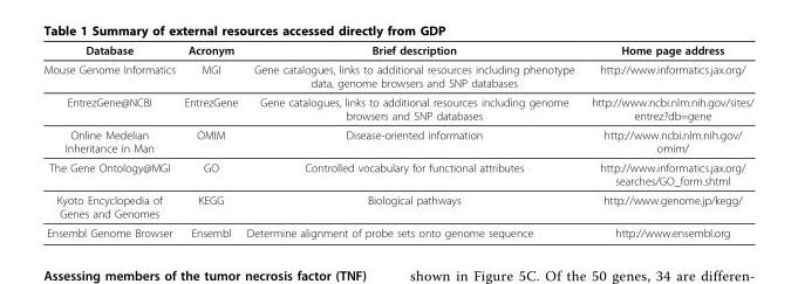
<table><thead><tr><td>Database</td><td>Acronym</td><td>Brief description</td><td>Home page address</td></tr></thead><tbody><tr><td>Mouse Genome Informatics</td><td>MGI</td><td>Gene catalogues, links to additional resources including phenotype data, genome browsers and SNP databases</td><td>http://www.informatics.jax.org/</td></tr><tr><td>EntrezGene@NCBI</td><td>EntrezGene</td><td>Gene catalogues, links to additional resources including genome browsers and SNP databases</td><td>http://www.ncbi.nlm.nih.gov/sites/ entrez?db=gene</td></tr><tr><td>Online Medelian Inheritance in Man</td><td>OMIM</td><td>Disease-oriented information</td><td>http://www.ncbi.nlm.nih.gov/ omim/</td></tr><tr><td>The Gene Ontology@MGI</td><td>GO</td><td>Controlled vocabulary for functional attributes</td><td>http://www.informatics.jax.org/ searches/GO_form.shtml</td></tr><tr><td>Kyoto Encyclopedia of Genes and Genomes</td><td>KEGG</td><td>Biological pathways</td><td>http://www.genome.jp/kegg/</td></tr><tr><td>Ensembl Genome Browser</td><td>Ensembl</td><td>Determine alignment of probe sets onto genome sequence</td><td>http://www.ensembl.org</td></tr></tbody></table>